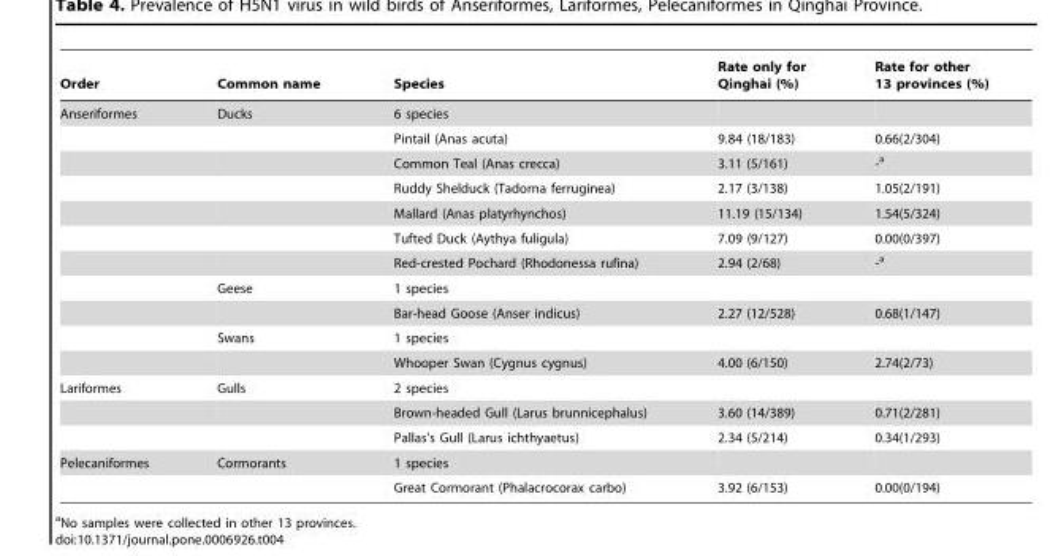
<table><thead><tr><td>Order</td><td>Common name</td><td>Species</td><td>Rate only for Qinghai (%)</td><td>Rate for other 13 provinces (%)</td></tr></thead><tbody><tr><td rowspan="11">Anseriformes</td><td>Ducks</td><td>6 species</td><td></td><td></td></tr><tr><td></td><td>Pintail (Anas acuta)</td><td>9.84 (18/183)</td><td>0.66(2/304)</td></tr><tr><td></td><td>Common Teal (Anas crecca)</td><td>3.11 (5/161)</td><td>-a</td></tr><tr><td></td><td>Ruddy Shelduck (Tadorna ferruginea)</td><td>2.17 (3/138)</td><td>1.05(2/191)</td></tr><tr><td></td><td>Mallard (Anas platyrhynchos)</td><td>11.19 (15/134)</td><td>1.54(5/324)</td></tr><tr><td></td><td>Tufted Duck (Aythya fuligula)</td><td>7.09 (9/127)</td><td>0.00(0/397)</td></tr><tr><td></td><td>Red-crested Pochard (Rhodonessa rufina)</td><td>2.94 (2/68)</td><td>-a</td></tr><tr><td>Geese</td><td>1 species</td><td></td><td></td></tr><tr><td></td><td>Bar-head Goose (Anser indicus)</td><td>2.27 (12/528)</td><td>0.68(1/147)</td></tr><tr><td>Swans</td><td>1 species</td><td></td><td></td></tr><tr><td></td><td>Whooper Swan (Cygnus cygnus)</td><td>4.00 (6/150)</td><td>2.74(2/73)</td></tr><tr><td rowspan="3">Lariformes</td><td>Gulls</td><td>2 species</td><td></td><td></td></tr><tr><td></td><td>Brown-headed Gull (Larus brunnicephalus)</td><td>3.60 (14/389)</td><td>0.71(2/281)</td></tr><tr><td></td><td>Pallas’s Gull (Larus ichthyaetus)</td><td>2.34 (5/214)</td><td>0.34(1/293)</td></tr><tr><td rowspan="2">Pelecaniformes</td><td>Cormorants</td><td>1 species</td><td></td><td></td></tr><tr><td></td><td>Great Cormorant (Phalacrocorax carbo)</td><td>3.92 (6/153)</td><td>0.00(0/194)</td></tr></tbody></table>